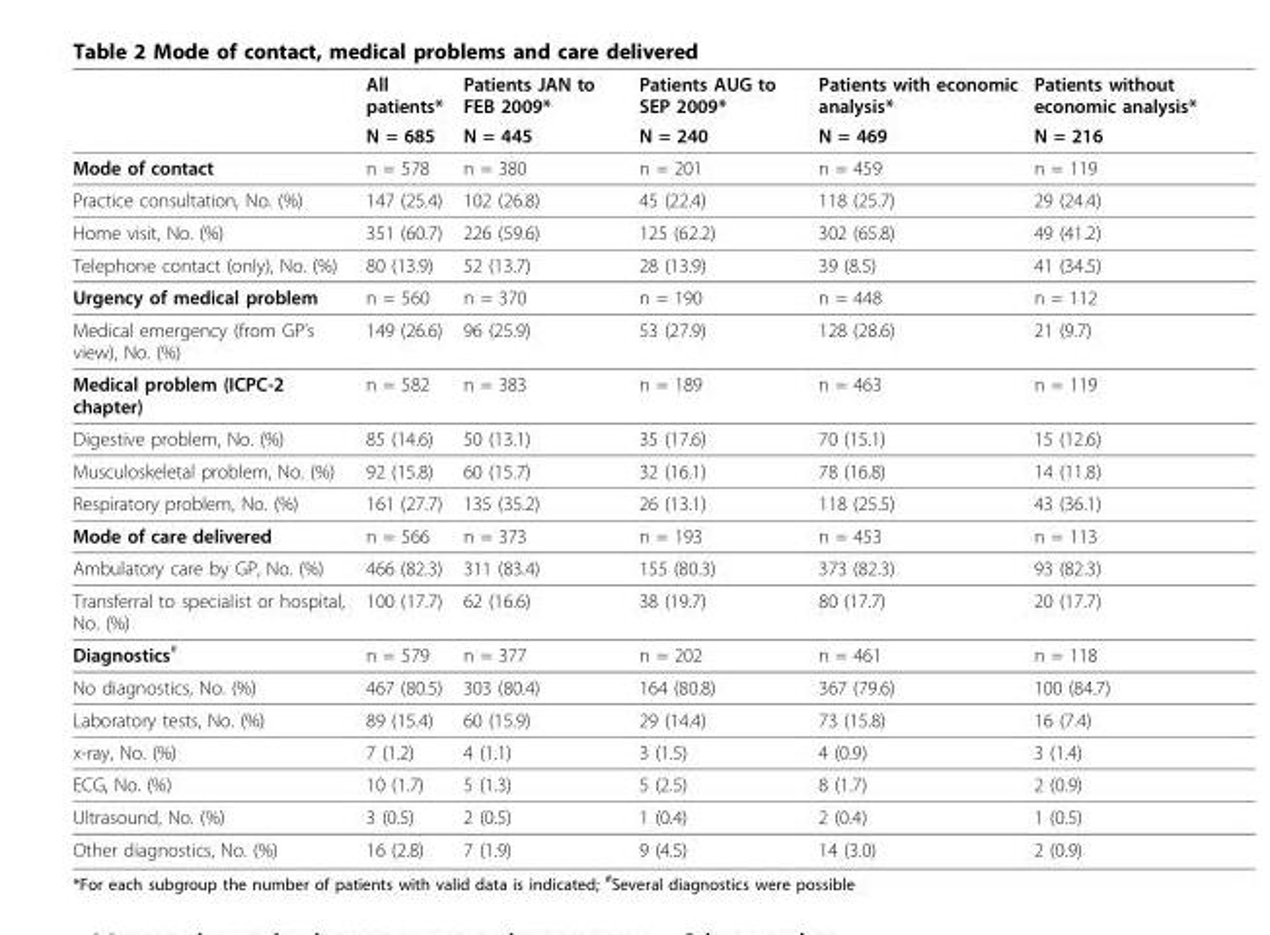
<table><thead><tr><td rowspan="2"></td><td rowspan="2">All patients* N = 685</td><td rowspan="2">Patients JAN to FEB 2009* N = 445</td><td rowspan="2">Patients AUG to SEP 2009* N = 240</td><td rowspan="2">Patients with economic analysis* N = 469</td><td rowspan="2">Patients without economic analysis* N = 216</td></tr><tr></tr></thead><tbody><tr><td>Mode of contact</td><td>n = 578</td><td>n = 380</td><td>n = 201</td><td>n = 459</td><td>n = 119</td></tr><tr><td>Practice consultation, No. (%)</td><td>147 (25.4)</td><td>102 (26.8)</td><td>45 (22.4)</td><td>118 (25.7)</td><td>29 (24.4)</td></tr><tr><td>Home visit, No. (%)</td><td>351 (60.7)</td><td>226 (59.6)</td><td>125 (62.2)</td><td>302 (65.8)</td><td>49 (41.2)</td></tr><tr><td>Telephone contact (only), No. (%)</td><td>80 (13.9)</td><td>52 (13.7)</td><td>28 (13.9)</td><td>39 (8.5)</td><td>41 (34.5)</td></tr><tr><td>Urgency of medical problem</td><td>n = 560</td><td>n = 370</td><td>n = 190</td><td>n = 448</td><td>n = 112</td></tr><tr><td>Medical emergency (from GP’s view), No. (%)</td><td>149 (26.6)</td><td>96 (25.9)</td><td>53 (27.9)</td><td>128 (28.6)</td><td>21 (9.7)</td></tr><tr><td>Medical problem (ICPC-2 chapter)</td><td>n = 582</td><td>n = 383</td><td>n = 189</td><td>n = 463</td><td>n = 119</td></tr><tr><td>Digestive problem, No. (%)</td><td>85 (14.6)</td><td>50 (13.1)</td><td>35 (17.6)</td><td>70 (15.1)</td><td>15 (12.6)</td></tr><tr><td>Musculoskeletal problem, No. (%)</td><td>92 (15.8)</td><td>60 (15.7)</td><td>32 (16.1)</td><td>78 (16.8)</td><td>14 (11.8)</td></tr><tr><td>Respiratory problem, No. (%)</td><td>161 (27.7)</td><td>135 (35.2)</td><td>26 (13.1)</td><td>118 (25.5)</td><td>43 (36.1)</td></tr><tr><td>Mode of care delivered</td><td>n = 566</td><td>n = 373</td><td>n = 193</td><td>n = 453</td><td>n = 113</td></tr><tr><td>Ambulatory care by GP, No. (%)</td><td>466 (82.3)</td><td>311 (83.4)</td><td>155 (80.3)</td><td>373 (82.3)</td><td>93 (82.3)</td></tr><tr><td>Transferral to specialist or hospital, No. (%)</td><td>100 (17.7)</td><td>62 (16.6)</td><td>38 (19.7)</td><td>80 (17.7)</td><td>20 (17.7)</td></tr><tr><td>Diagnostics<sup>#</sup></td><td>n = 579</td><td>n = 377</td><td>n = 202</td><td>n = 461</td><td>n = 118</td></tr><tr><td>No diagnostics, No. (%)</td><td>467 (80.5)</td><td>303 (80.4)</td><td>164 (80.8)</td><td>367 (79.6)</td><td>100 (84.7)</td></tr><tr><td>Laboratory tests, No. (%)</td><td>89 (15.4)</td><td>60 (15.9)</td><td>29 (14.4)</td><td>73 (15.8)</td><td>16 (7.4)</td></tr><tr><td>x-ray, No. (%)</td><td>7 (1.2)</td><td>4 (1.1)</td><td>3 (1.5)</td><td>4 (0.9)</td><td>3 (1.4)</td></tr><tr><td>ECG, No. (%)</td><td>10 (1.7)</td><td>5 (1.3)</td><td>5 (2.5)</td><td>8 (1.7)</td><td>2 (0.9)</td></tr><tr><td>Ultrasound, No. (%)</td><td>3 (0.5)</td><td>2 (0.5)</td><td>1 (0.4)</td><td>2 (0.4)</td><td>1 (0.5)</td></tr><tr><td>Other diagnostics, No. (%)</td><td>16 (2.8)</td><td>7 (1.9)</td><td>9 (4.5)</td><td>14 (3.0)</td><td>2 (0.9)</td></tr></tbody></table>